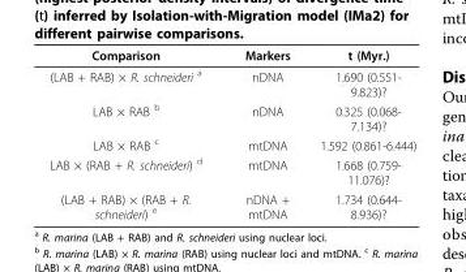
<table><thead><tr><td>Comparison</td><td>Markers</td><td>t (Myr.)</td></tr></thead><tbody><tr><td>(LAB + RAB) × R. schneideri <sup>a</sup></td><td>nDNA</td><td>1.690 (0.551- 9.823)?</td></tr><tr><td>LAB × RAB <sup>b</sup></td><td>nDNA</td><td>0.325 (0.068- 7.134)?</td></tr><tr><td>LAB × RAB <sup>c</sup></td><td>mtDNA</td><td>1.592 (0.861-6.444)</td></tr><tr><td>LAB × (RAB + R. schneideri) <sup>d</sup></td><td>mtDNA</td><td>1.668 (0.759- 11.076)?</td></tr><tr><td>(LAB + RAB) × (RAB + R. schneideri) <sup>e</sup></td><td>nDNA + mtDNA</td><td>1.734 (0.644- 8.936)?</td></tr></tbody></table>